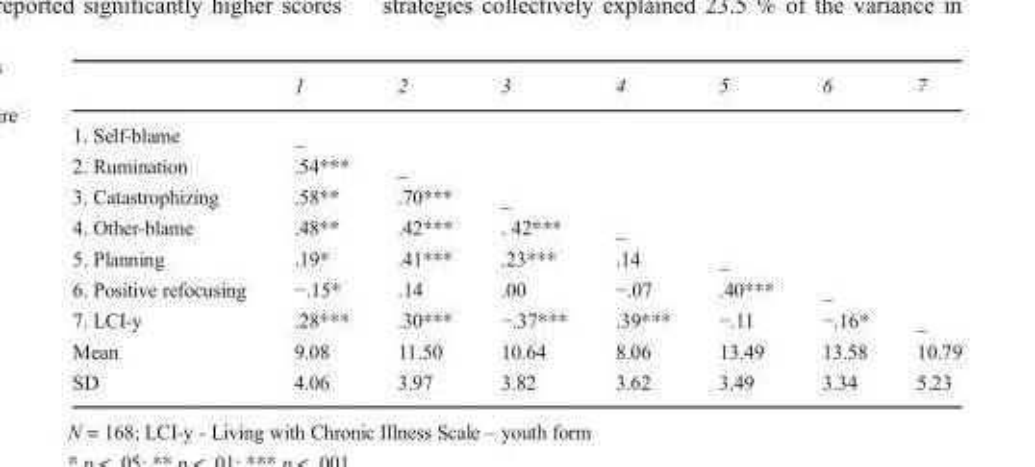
<table><thead><tr><td></td><td>1</td><td>2</td><td>3</td><td>4</td><td>5</td><td>6</td><td>7</td></tr></thead><tbody><tr><td>1. Self-blame</td><td>_</td><td></td><td></td><td></td><td></td><td></td><td></td></tr><tr><td>2. Rumination</td><td>.54***</td><td>_</td><td></td><td></td><td></td><td></td><td></td></tr><tr><td>3. Catastrophizing</td><td>.58**</td><td>.70***</td><td>_</td><td></td><td></td><td></td><td></td></tr><tr><td>4. Other-blame</td><td>.48**</td><td>.42***</td><td>. 42***</td><td>_</td><td></td><td></td><td></td></tr><tr><td>5. Planning</td><td>.19*</td><td>.41***</td><td>.23***</td><td>.14</td><td>_</td><td></td><td></td></tr><tr><td>6. Positive refocusing</td><td>−.15*</td><td>.14</td><td>.00</td><td>−.07</td><td>.40***</td><td>_</td><td></td></tr><tr><td>7. LCI-y</td><td>.28***</td><td>.30***</td><td>−.37***</td><td>.39***</td><td>−.11</td><td>−.16*</td><td>_</td></tr><tr><td>Mean</td><td>9.08</td><td>11.50</td><td>10.64</td><td>8.06</td><td>13.49</td><td>13.58</td><td>10.79</td></tr><tr><td>SD</td><td>4.06</td><td>3.97</td><td>3.82</td><td>3.62</td><td>3.49</td><td>3.34</td><td>5.23</td></tr></tbody></table>